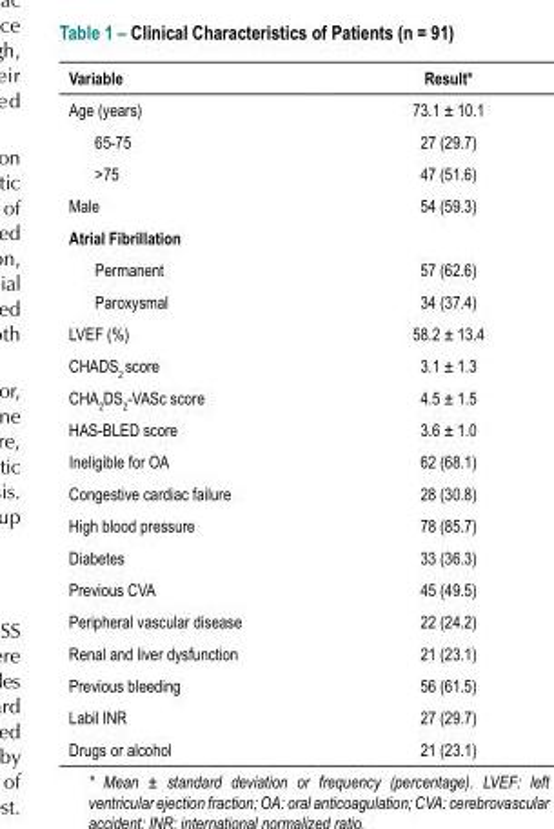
<table><thead><tr><td>Variable</td><td>Result*</td></tr></thead><tbody><tr><td>Age (years)</td><td>73.1 ± 10.1</td></tr><tr><td>65-75</td><td>27 (29.7)</td></tr><tr><td>&gt;75</td><td>47 (51.6)</td></tr><tr><td>Male</td><td>54 (59.3)</td></tr><tr><td colspan="2">Atrial Fibrillation</td></tr><tr><td>Permanent</td><td>57 (62.6)</td></tr><tr><td>Paroxysmal</td><td>34 (37.4)</td></tr><tr><td>LVEF (%)</td><td>58.2 ± 13.4</td></tr><tr><td>CHADS<sub>2</sub> score</td><td>3.1 ± 1.3</td></tr><tr><td>CHA<sub>2</sub>DS<sub>2</sub>-VASc score</td><td>4.5 ± 1.5</td></tr><tr><td>HAS-BLED score</td><td>3.6 ± 1.0</td></tr><tr><td>Ineligible for OA</td><td>62 (68.1)</td></tr><tr><td>Congestive cardiac failure</td><td>28 (30.8)</td></tr><tr><td>High blood pressure</td><td>78 (85.7)</td></tr><tr><td>Diabetes</td><td>33 (36.3)</td></tr><tr><td>Previous CVA</td><td>45 (49.5)</td></tr><tr><td>Peripheral vascular disease</td><td>22 (24.2)</td></tr><tr><td>Renal and liver dysfunction</td><td>21 (23.1)</td></tr><tr><td>Previous bleeding</td><td>56 (61.5)</td></tr><tr><td>Labil INR</td><td>27 (29.7)</td></tr><tr><td>Drugs or alcohol</td><td>21 (23.1)</td></tr></tbody></table>